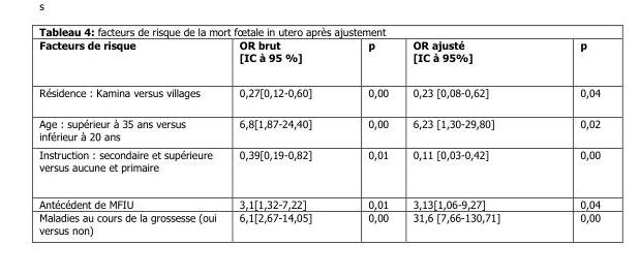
<table><thead><tr><td>Facteurs de risque</td><td>OR brut [IC à 95 %]</td><td>p</td><td>OR ajusté [IC à 95%]</td><td>p</td></tr></thead><tbody><tr><td>Résidence : Kamina versus villages</td><td>0,27[0,12-0,60]</td><td>0,00</td><td>0,23 [0,08-0,62]</td><td>0,04</td></tr><tr><td>Age : supérieur à 35 ans versus inférieur à 20 ans</td><td>6,8[1,87-24,40]</td><td>0,00</td><td>6,23 [1,30-29,80]</td><td>0,02</td></tr><tr><td>Instruction : secondaire et supérieure versus aucune et primaire</td><td>0,39[0,19-0,82]</td><td>0,01</td><td>0,11 [0,03-0,42]</td><td>0,00</td></tr><tr><td>Antécédent de MFIU</td><td>3,1[1,32-7,22]</td><td>0,01</td><td>3,13[1,06-9,27]</td><td>0,04</td></tr><tr><td>Maladies au cours de la grossesse (oui versus non)</td><td>6,1[2,67-14,05]</td><td>0,00</td><td>31,6 [7,66-130,71]</td><td>0,00</td></tr></tbody></table>